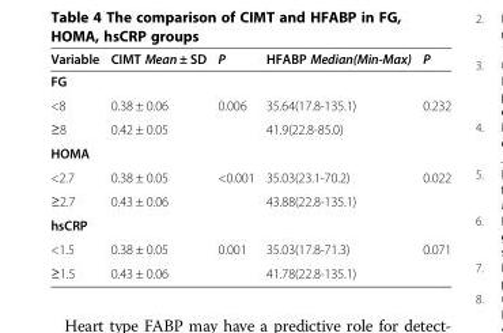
<table><thead><tr><td>Variable</td><td>CIMT Mean ± SD</td><td>P</td><td>HFABP Median(Min-Max)</td><td>P</td></tr></thead><tbody><tr><td colspan="5">FG</td></tr><tr><td>&lt;8</td><td>0.38 ± 0.06</td><td>0.006</td><td>35.64(17.8-135.1)</td><td>0.232</td></tr><tr><td>≥8</td><td>0.42 ± 0.05</td><td></td><td>41.9(22.8-85.0)</td><td></td></tr><tr><td colspan="5">HOMA</td></tr><tr><td>&lt;2.7</td><td>0.38 ± 0.05</td><td>&lt;0.001</td><td>35.03(23.1-70.2)</td><td>0.022</td></tr><tr><td>≥2.7</td><td>0.43 ± 0.06</td><td></td><td>43.88(22.8-135.1)</td><td></td></tr><tr><td colspan="5">hsCRP</td></tr><tr><td>&lt;1.5</td><td>0.38 ± 0.05</td><td>0.001</td><td>35.03(17.8-71.3)</td><td>0.071</td></tr><tr><td>≥1.5</td><td>0.43 ± 0.06</td><td></td><td>41.78(22.8-135.1)</td><td></td></tr></tbody></table>